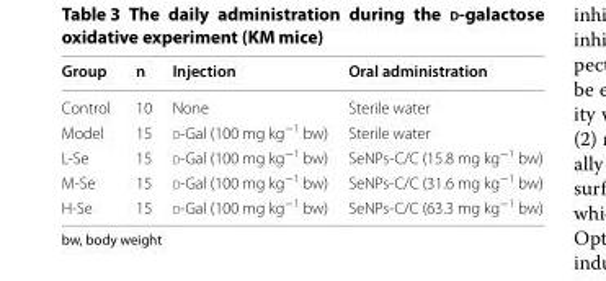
<table><thead><tr><td>Group</td><td>n</td><td>Injection</td><td>Oral administration</td></tr></thead><tbody><tr><td>Control</td><td>10</td><td>None</td><td>Sterile water</td></tr><tr><td>Model</td><td>15</td><td>d-Gal (100 mg kg<sup>−1</sup> bw)</td><td>Sterile water</td></tr><tr><td>L-Se</td><td>15</td><td>d-Gal (100 mg kg<sup>−1</sup> bw)</td><td>SeNPs-C/C (15.8 mg kg<sup>−1</sup> bw)</td></tr><tr><td>M-Se</td><td>15</td><td>d-Gal (100 mg kg<sup>−1</sup> bw)</td><td>SeNPs-C/C (31.6 mg kg<sup>−1</sup> bw)</td></tr><tr><td>H-Se</td><td>15</td><td>d-Gal (100 mg kg<sup>−1</sup> bw)</td><td>SeNPs-C/C (63.3 mg kg<sup>−1</sup> bw)</td></tr></tbody></table>